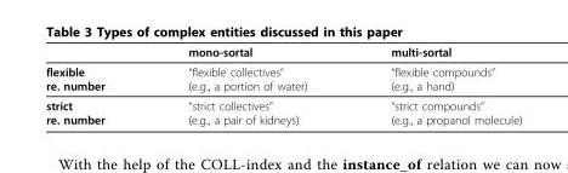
<table><thead><tr><td></td><td>mono-sortal</td><td>multi-sortal</td></tr></thead><tbody><tr><td>flexible re. number</td><td>“flexible collectives” (e.g., a portion of water)</td><td>“flexible compounds” (e.g., a hand)</td></tr><tr><td>strict re. number</td><td>“strict collectives” (e.g., a pair of kidneys)</td><td>“strict compounds” (e.g., a propanol molecule)</td></tr></tbody></table>